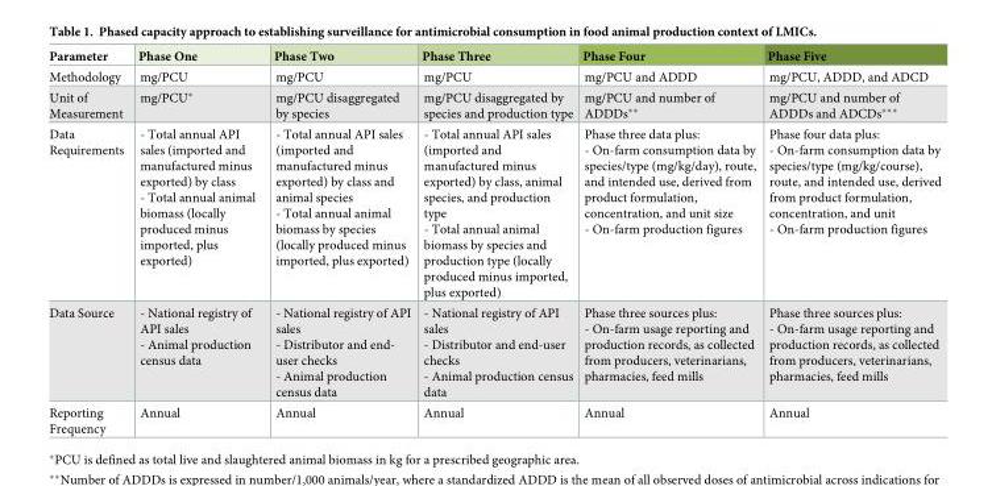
<table><thead><tr><td>Parameter</td><td>Phase One</td><td>Phase Two</td><td>Phase Three</td><td>Phase Four</td><td>Phase Five</td></tr></thead><tbody><tr><td>Methodology</td><td>mg/PCU</td><td>mg/PCU</td><td>mg/PCU</td><td>mg/PCU and ADDD</td><td>mg/PCU, ADDD, and ADCD</td></tr><tr><td>Unit of Measurement</td><td>mg/PCU*</td><td>mg/PCU disaggregated by species</td><td>mg/PCU disaggregated by species and production type</td><td>mg/PCU and number of ADDDs**</td><td>mg/PCU and number of ADDDs and ADCDs***</td></tr><tr><td>Data Requirements</td><td>- Total annual API sales (imported and manufactured minus exported) by class - Total annual animal biomass (locally produced minus imported, plus exported)</td><td>- Total annual API sales (imported and manufactured minus exported) by class and animal species - Total annual animal biomass by species (locally produced minus imported, plus exported)</td><td>- Total annual API sales (imported and manufactured minus exported) by class, animal species, and production type - Total annual animal biomass by species and production type (locally produced minus imported, plus exported)</td><td>Phase three data plus: - On-farm consumption data by species/type (mg/kg/day), route, and intended use, derived from product formulation, concentration, and unit size - On-farm production figures</td><td>Phase four data plus: - On-farm consumption data by species/type (mg/kg/course), route, and intended use, derived from product formulation, concentration, and unit - On-farm production figures</td></tr><tr><td>Data Source</td><td>- National registry of API sales - Animal production census data</td><td>- National registry of API sales - Distributor and end- user checks - Animal production census data</td><td>- National registry of API sales - Distributor and end-user checks - Animal production census data</td><td>Phase three sources plus: - On-farm usage reporting and production records, as collected from producers, veterinarians, pharmacies, feed mills</td><td>Phase three sources plus: - On-farm usage reporting and production records, as collected from producers, veterinarians, pharmacies, feed mills</td></tr><tr><td>Reporting Frequency</td><td>Annual</td><td>Annual</td><td>Annual</td><td>Annual</td><td>Annual</td></tr></tbody></table>